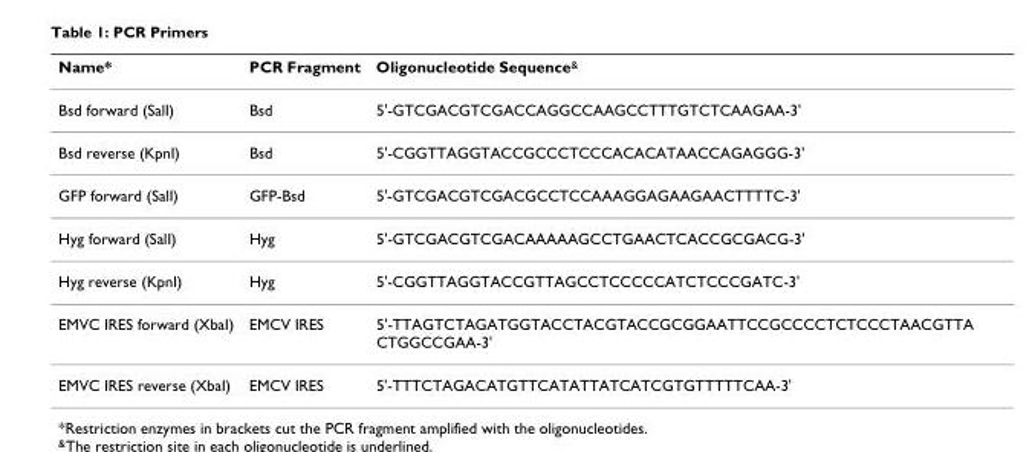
<table><thead><tr><td>Name*</td><td>PCR Fragment</td><td>Oligonucleotide Sequence<sup>&amp;</sup></td></tr></thead><tbody><tr><td>Bsd forward (SalI)</td><td>Bsd</td><td>5&#x27;-GTCGACGTCGACCAGGCCAAGCCTTTGTCTCAAGAA-3&#x27;</td></tr><tr><td>Bsd reverse (KpnI)</td><td>Bsd</td><td>5&#x27;-CGGTTAGGTACCGCCCTCCCACACATAACCAGAGGG-3&#x27;</td></tr><tr><td>GFP forward (SalI)</td><td>GFP-Bsd</td><td>5&#x27;-GTCGACGTCGACGCCTCCAAAGGAGAAGAACTTTTC-3&#x27;</td></tr><tr><td>Hyg forward (SalI)</td><td>Hyg</td><td>5&#x27;-GTCGACGTCGACAAAAAGCCTGAACTCACCGCGACG-3&#x27;</td></tr><tr><td>Hyg reverse (KpnI)</td><td>Hyg</td><td>5&#x27;-CGGTTAGGTACCGTTAGCCTCCCCCATCTCCCGATC-3&#x27;</td></tr><tr><td>EMVC IRES forward (XbaI)</td><td>EMCV IRES</td><td>5&#x27;-TTAGTCTAGATGGTACCTACGTACCGCGGAATTCCGCCCCTCTCCCTAACGTTA CTGGCCGAA-3&#x27;</td></tr><tr><td>EMVC IRES reverse (XbaI)</td><td>EMCV IRES</td><td>5&#x27;-TTTCTAGACATGTTCATATTATCATCGTGTTTTTCAA-3&#x27;</td></tr></tbody></table>